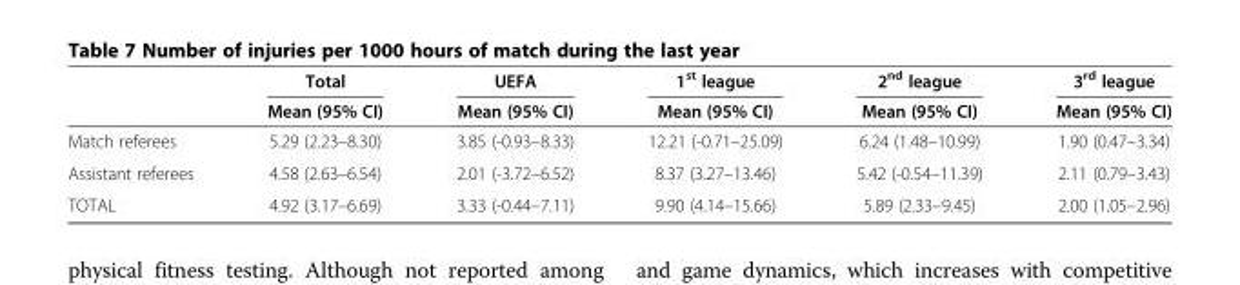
<table><thead><tr><td rowspan="2"></td><td rowspan="2">Total Mean (95% CI)</td><td rowspan="2">UEFA Mean (95% CI)</td><td rowspan="2">1<sup>st</sup> league Mean (95% CI)</td><td rowspan="2">2<sup>nd</sup> league Mean (95% CI)</td><td rowspan="2">3<sup>rd</sup> league Mean (95% CI)</td></tr><tr></tr></thead><tbody><tr><td>Match referees</td><td>5.29 (2.23–8.30)</td><td>3.85 (-0.93–8.33)</td><td>12.21 (-0.71–25.09)</td><td>6.24 (1.48–10.99)</td><td>1.90 (0.47–3.34)</td></tr><tr><td>Assistant referees</td><td>4.58 (2.63–6.54)</td><td>2.01 (-3.72–6.52)</td><td>8.37 (3.27–13.46)</td><td>5.42 (-0.54–11.39)</td><td>2.11 (0.79–3.43)</td></tr><tr><td>TOTAL</td><td>4.92 (3.17–6.69)</td><td>3.33 (-0.44–7.11)</td><td>9.90 (4.14–15.66)</td><td>5.89 (2.33–9.45)</td><td>2.00 (1.05–2.96)</td></tr></tbody></table>